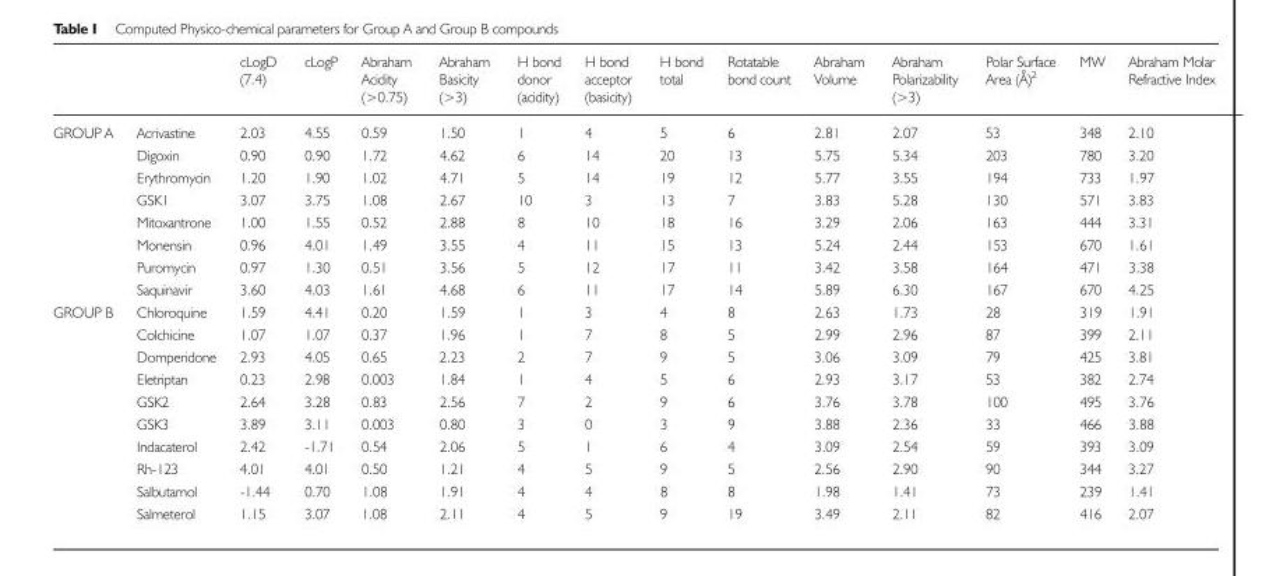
<table><thead><tr><td></td><td></td><td>cLogD (7.4)</td><td>cLogP</td><td>Abraham Acidity (&gt;0.75)</td><td>Abraham Basicity (&gt;3)</td><td>H bond donor (acidity)</td><td>H bond acceptor (basicity)</td><td>H bond total</td><td>Rotatable bond count</td><td>Abraham Volume</td><td>Abraham Polarizability (&gt;3)</td><td>Polar Surface Area (Å)<sup>2</sup></td><td>MW</td><td>Abraham Molar Refractive Index</td></tr></thead><tbody><tr><td rowspan="8">GROUP A</td><td>Acrivastine</td><td>2.03</td><td>4.55</td><td>0.59</td><td>1.50</td><td>1</td><td>4</td><td>5</td><td>6</td><td>2.81</td><td>2.07</td><td>53</td><td>348</td><td>2.10</td></tr><tr><td>Digoxin</td><td>0.90</td><td>0.90</td><td>1.72</td><td>4.62</td><td>6</td><td>14</td><td>20</td><td>13</td><td>5.75</td><td>5.34</td><td>203</td><td>780</td><td>3.20</td></tr><tr><td>Erythromycin</td><td>1.20</td><td>1.90</td><td>1.02</td><td>4.71</td><td>5</td><td>14</td><td>19</td><td>12</td><td>5.77</td><td>3.55</td><td>194</td><td>733</td><td>1.97</td></tr><tr><td>GSK1</td><td>3.07</td><td>3.75</td><td>1.08</td><td>2.67</td><td>10</td><td>3</td><td>13</td><td>7</td><td>3.83</td><td>5.28</td><td>130</td><td>571</td><td>3.83</td></tr><tr><td>Mitoxantrone</td><td>1.00</td><td>1.55</td><td>0.52</td><td>2.88</td><td>8</td><td>10</td><td>18</td><td>16</td><td>3.29</td><td>2.06</td><td>163</td><td>444</td><td>3.31</td></tr><tr><td>Monensin</td><td>0.96</td><td>4.01</td><td>1.49</td><td>3.55</td><td>4</td><td>11</td><td>15</td><td>13</td><td>5.24</td><td>2.44</td><td>153</td><td>670</td><td>1.61</td></tr><tr><td>Puromycin</td><td>0.97</td><td>1.30</td><td>0.51</td><td>3.56</td><td>5</td><td>12</td><td>17</td><td>11</td><td>3.42</td><td>3.58</td><td>164</td><td>471</td><td>3.38</td></tr><tr><td>Saquinavir</td><td>3.60</td><td>4.03</td><td>1.61</td><td>4.68</td><td>6</td><td>11</td><td>17</td><td>14</td><td>5.89</td><td>6.30</td><td>167</td><td>670</td><td>4.25</td></tr><tr><td rowspan="10">GROUP B</td><td>Chloroquine</td><td>1.59</td><td>4.41</td><td>0.20</td><td>1.59</td><td>1</td><td>3</td><td>4</td><td>8</td><td>2.63</td><td>1.73</td><td>28</td><td>319</td><td>1.91</td></tr><tr><td>Colchicine</td><td>1.07</td><td>1.07</td><td>0.37</td><td>1.96</td><td>1</td><td>7</td><td>8</td><td>5</td><td>2.99</td><td>2.96</td><td>87</td><td>399</td><td>2.11</td></tr><tr><td>Domperidone</td><td>2.93</td><td>4.05</td><td>0.65</td><td>2.23</td><td>2</td><td>7</td><td>9</td><td>5</td><td>3.06</td><td>3.09</td><td>79</td><td>425</td><td>3.81</td></tr><tr><td>Eletriptan</td><td>0.23</td><td>2.98</td><td>0.003</td><td>1.84</td><td>1</td><td>4</td><td>5</td><td>6</td><td>2.93</td><td>3.17</td><td>53</td><td>382</td><td>2.74</td></tr><tr><td>GSK2</td><td>2.64</td><td>3.28</td><td>0.83</td><td>2.56</td><td>7</td><td>2</td><td>9</td><td>6</td><td>3.76</td><td>3.78</td><td>100</td><td>495</td><td>3.76</td></tr><tr><td>GSK3</td><td>3.89</td><td>3.11</td><td>0.003</td><td>0.80</td><td>3</td><td>0</td><td>3</td><td>9</td><td>3.88</td><td>2.36</td><td>33</td><td>466</td><td>3.88</td></tr><tr><td>Indacaterol</td><td>2.42</td><td>-1.71</td><td>0.54</td><td>2.06</td><td>5</td><td>1</td><td>6</td><td>4</td><td>3.09</td><td>2.54</td><td>59</td><td>393</td><td>3.09</td></tr><tr><td>Rh-123</td><td>4.01</td><td>4.01</td><td>0.50</td><td>1.21</td><td>4</td><td>5</td><td>9</td><td>5</td><td>2.56</td><td>2.90</td><td>90</td><td>344</td><td>3.27</td></tr><tr><td>Salbutamol</td><td>-1.44</td><td>0.70</td><td>1.08</td><td>1.91</td><td>4</td><td>4</td><td>8</td><td>8</td><td>1.98</td><td>1.41</td><td>73</td><td>239</td><td>1.41</td></tr><tr><td>Salmeterol</td><td>1.15</td><td>3.07</td><td>1.08</td><td>2.11</td><td>4</td><td>5</td><td>9</td><td>19</td><td>3.49</td><td>2.11</td><td>82</td><td>416</td><td>2.07</td></tr></tbody></table>